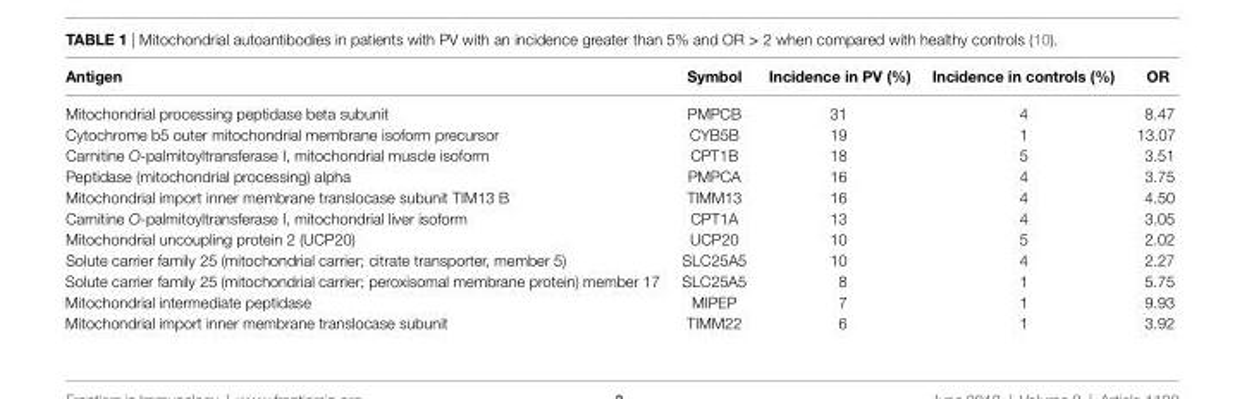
<table><thead><tr><td>Antigen</td><td>Symbol</td><td>incidence in Pv (%)</td><td>incidence in controls (%)</td><td>OR</td></tr></thead><tbody><tr><td>Mitochondrial processing peptidase beta subunit</td><td>PMPCB</td><td>31</td><td>4</td><td>8.47</td></tr><tr><td>Cytochrome b5 outer mitochondrial membrane isoform precursor</td><td>CYB5B</td><td>19</td><td>1</td><td>13.07</td></tr><tr><td>Carnitine O-palmitoyltransferase I, mitochondrial muscle isoform</td><td>CPT1B</td><td>18</td><td>5</td><td>3.51</td></tr><tr><td>Peptidase (mitochondrial processing) alpha</td><td>PMPCA</td><td>16</td><td>4</td><td>3.75</td></tr><tr><td>Mitochondrial import inner membrane translocase subunit TIM13 B</td><td>TIMM13</td><td>16</td><td>4</td><td>4.50</td></tr><tr><td>Carnitine O-palmitoyltransferase I, mitochondrial liver isoform</td><td>CPT1A</td><td>13</td><td>4</td><td>3.05</td></tr><tr><td>Mitochondrial uncoupling protein 2 (UCP20)</td><td>UCP20</td><td>10</td><td>5</td><td>2.02</td></tr><tr><td>Solute carrier family 25 (mitochondrial carrier; citrate transporter, member 5)</td><td>SLC25A5</td><td>10</td><td>4</td><td>2.27</td></tr><tr><td>Solute carrier family 25 (mitochondrial carrier; peroxisomal membrane protein) member 17</td><td>SLC25A5</td><td>8</td><td>1</td><td>5.75</td></tr><tr><td>Mitochondrial intermediate peptidase</td><td>MIPEP</td><td>7</td><td>1</td><td>9.93</td></tr><tr><td>Mitochondrial import inner membrane translocase subunit</td><td>TIMM22</td><td>6</td><td>1</td><td>3.92</td></tr></tbody></table>